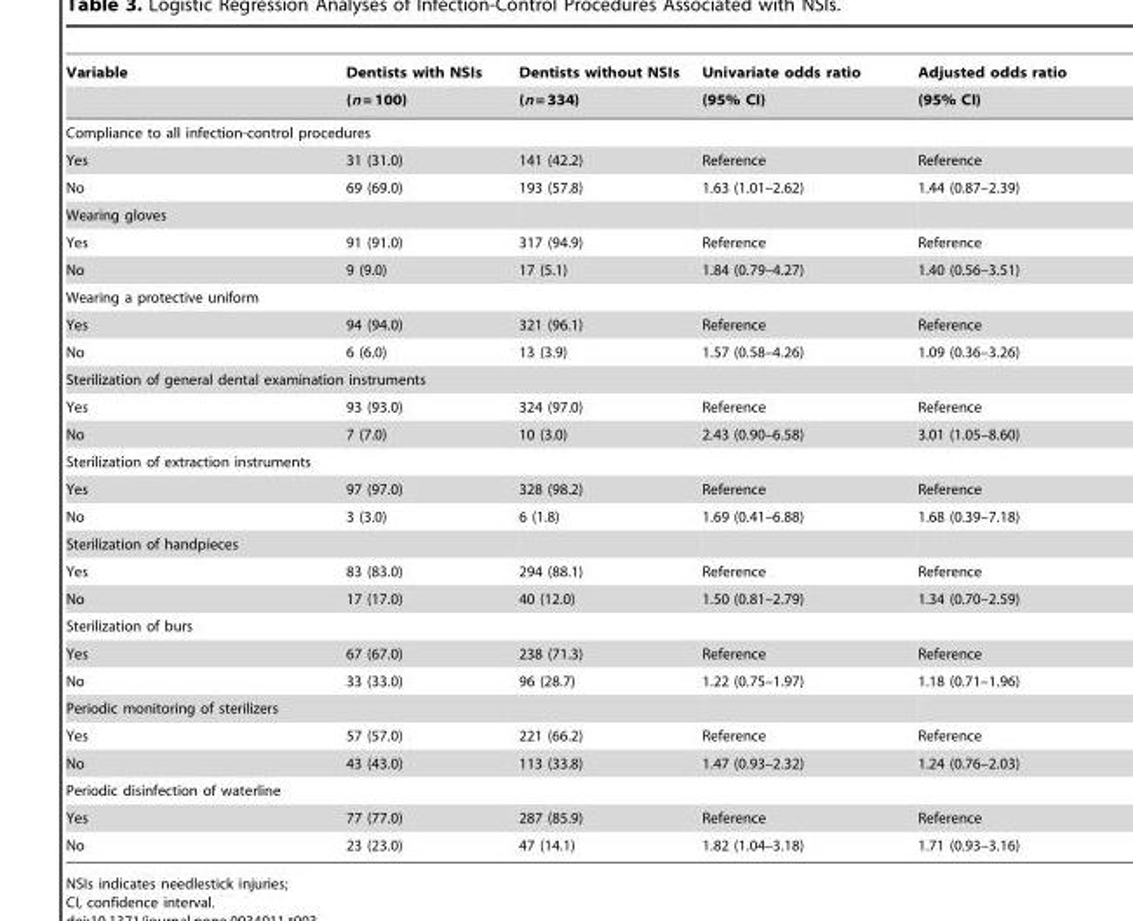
<table><thead><tr><td rowspan="2">Variable</td><td rowspan="2">Dentists with NSIs (n = 100)</td><td rowspan="2">Dentists without NSIs (n = 334)</td><td rowspan="2">Univariate odds ratio (95% CI)</td><td rowspan="2">Adjusted odds ratio (95% CI)</td></tr><tr></tr></thead><tbody><tr><td colspan="5">Compliance to all infection-control procedures</td></tr><tr><td>Yes</td><td>31 (31.0)</td><td>141 (42.2)</td><td>Reference</td><td>Reference</td></tr><tr><td>No</td><td>69 (69.0)</td><td>193 (57.8)</td><td>1.63 (1.01–2.62)</td><td>1.44 (0.87–2.39)</td></tr><tr><td colspan="5">Wearing gloves</td></tr><tr><td>Yes</td><td>91 (91.0)</td><td>317 (94.9)</td><td>Reference</td><td>Reference</td></tr><tr><td>No</td><td>9 (9.0)</td><td>17 (5.1)</td><td>1.84 (0.79–4.27)</td><td>1.40 (0.56–3.51)</td></tr><tr><td colspan="5">Wearing a protective uniform</td></tr><tr><td>Yes</td><td>94 (94.0)</td><td>321 (96.1)</td><td>Reference</td><td>Reference</td></tr><tr><td>No</td><td>6 (6.0)</td><td>13 (3.9)</td><td>1.57 (0.58–4.26)</td><td>1.09 (0.36–3.26)</td></tr><tr><td colspan="5">Sterilization of general dental examination instruments</td></tr><tr><td>Yes</td><td>93 (93.0)</td><td>324 (97.0)</td><td>Reference</td><td>Reference</td></tr><tr><td>No</td><td>7 (7.0)</td><td>10 (3.0)</td><td>2.43 (0.90–6.58)</td><td>3.01 (1.05–8.60)</td></tr><tr><td colspan="5">Sterilization of extraction instruments</td></tr><tr><td>Yes</td><td>97 (97.0)</td><td>328 (98.2)</td><td>Reference</td><td>Reference</td></tr><tr><td>No</td><td>3 (3.0)</td><td>6 (1.8)</td><td>1.69 (0.41–6.88)</td><td>1.68 (0.39–7.18)</td></tr><tr><td colspan="5">Sterilization of handpieces</td></tr><tr><td>Yes</td><td>83 (83.0)</td><td>294 (88.1)</td><td>Reference</td><td>Reference</td></tr><tr><td>No</td><td>17 (17.0)</td><td>40 (12.0)</td><td>1.50 (0.81–2.79)</td><td>1.34 (0.70–2.59)</td></tr><tr><td colspan="5">Sterilization of burs</td></tr><tr><td>Yes</td><td>67 (67.0)</td><td>238 (71.3)</td><td>Reference</td><td>Reference</td></tr><tr><td>No</td><td>33 (33.0)</td><td>96 (28.7)</td><td>1.22 (0.75–1.97)</td><td>1.18 (0.71–1.96)</td></tr><tr><td colspan="5">Periodic monitoring of sterilizers</td></tr><tr><td>Yes</td><td>57 (57.0)</td><td>221 (66.2)</td><td>Reference</td><td>Reference</td></tr><tr><td>No</td><td>43 (43.0)</td><td>113 (33.8)</td><td>1.47 (0.93–2.32)</td><td>1.24 (0.76–2.03)</td></tr><tr><td colspan="5">Periodic disinfection of waterline</td></tr><tr><td>Yes</td><td>77 (77.0)</td><td>287 (85.9)</td><td>Reference</td><td>Reference</td></tr><tr><td>No</td><td>23 (23.0)</td><td>47 (14.1)</td><td>1.82 (1.04–3.18)</td><td>1.71 (0.93–3.16)</td></tr></tbody></table>